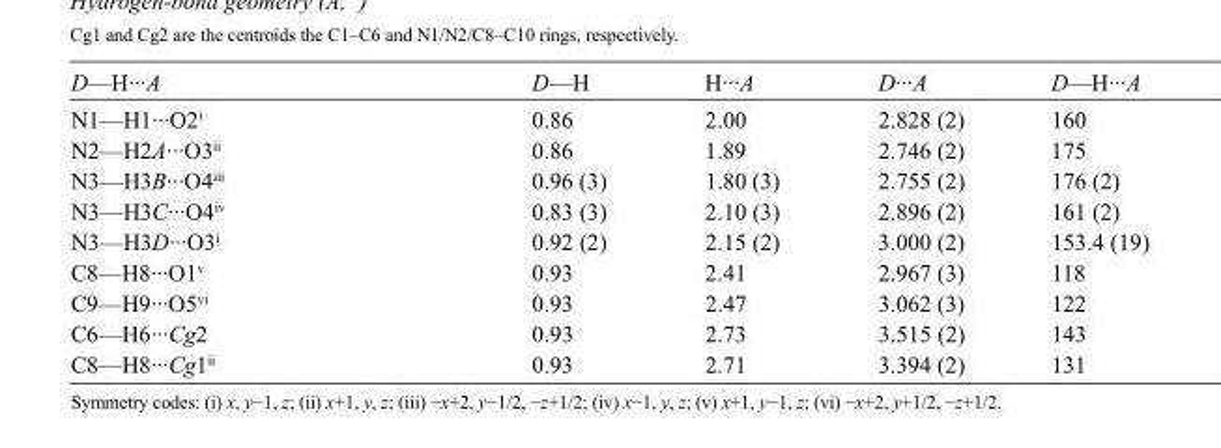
<table><tbody><tr><td>D—H···A</td><td>D—H</td><td>H···A</td><td>D···A</td><td>D—H···A</td></tr><tr><td>N1—H1···O2<sup>i</sup></td><td>0.86</td><td>2.00</td><td>2.828 (2)</td><td>160</td></tr><tr><td>N2—H2A···O3<sup>ii</sup></td><td>0.86</td><td>1.89</td><td>2.746 (2)</td><td>175</td></tr><tr><td>N3—H3B···O4<sup>iii</sup></td><td>0.96 (3)</td><td>1.80 (3)</td><td>2.755 (2)</td><td>176 (2)</td></tr><tr><td>N3—H3C···O4<sup>iv</sup></td><td>0.83 (3)</td><td>2.10 (3)</td><td>2.896 (2)</td><td>161 (2)</td></tr><tr><td>N3—H3D···O3<sup>i</sup></td><td>0.92 (2)</td><td>2.15 (2)</td><td>3.000 (2)</td><td>153.4 (19)</td></tr><tr><td>C8—H8···O1<sup>v</sup></td><td>0.93</td><td>2.41</td><td>2.967 (3)</td><td>118</td></tr><tr><td>C9—H9···O5<sup>vi</sup></td><td>0.93</td><td>2.47</td><td>3.062 (3)</td><td>122</td></tr><tr><td>C6—H6···Cg2</td><td>0.93</td><td>2.73</td><td>3.515 (2)</td><td>143</td></tr><tr><td>C8—H8···Cg1<sup>ii</sup></td><td>0.93</td><td>2.71</td><td>3.394 (2)</td><td>131</td></tr></tbody></table>